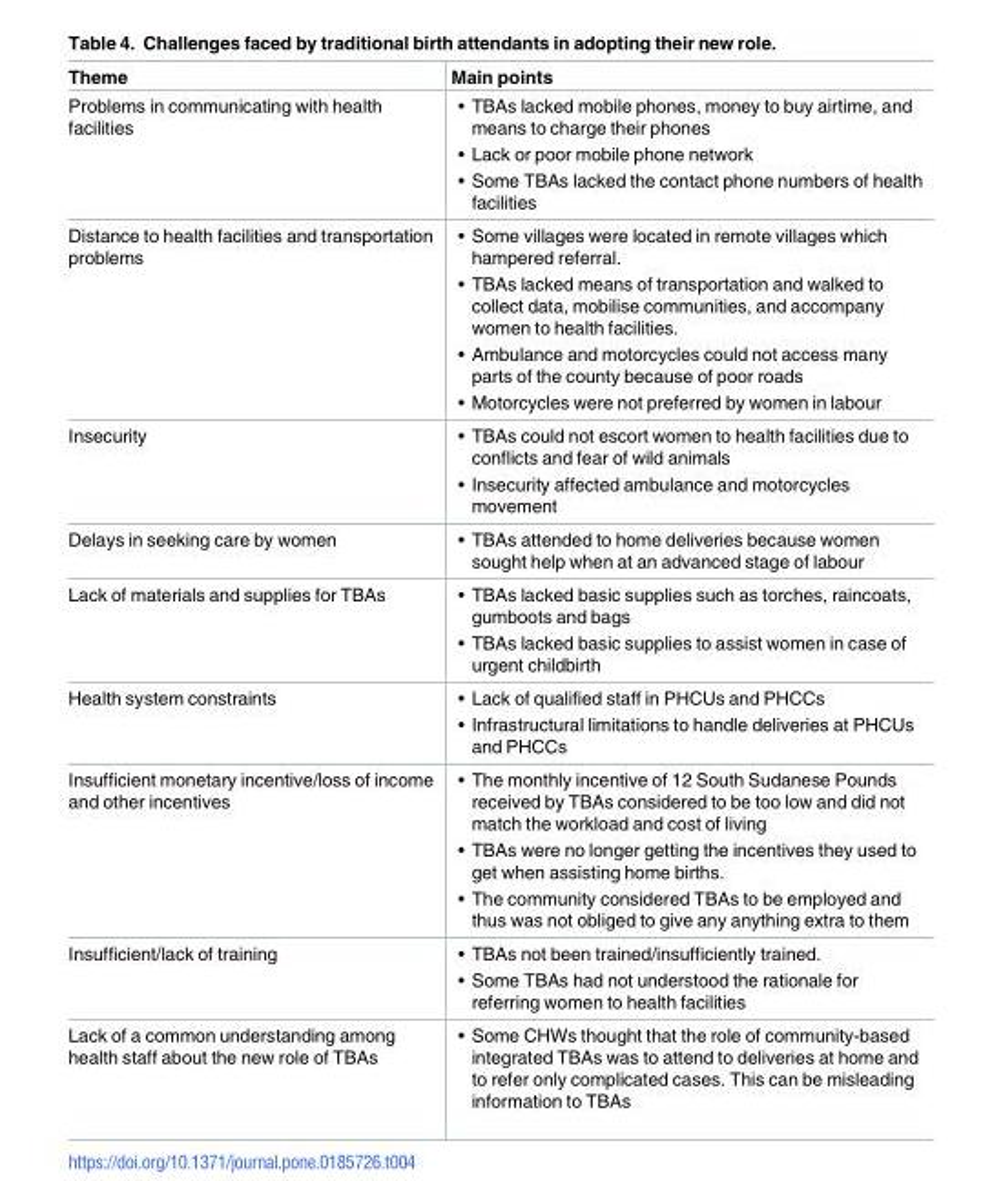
<table><thead><tr><td>Theme</td><td>Main points</td></tr></thead><tbody><tr><td>Problems in communicating with health facilities</td><td>• TBAs lacked mobile phones, money to buy airtime, and means to charge their phones • Lack or poor mobile phone network • Some TBAs lacked the contact phone numbers of health facilities</td></tr><tr><td>Distance to health facilities and transportation problems</td><td>• Some villages were located in remote villages which hampered referral. • TBAs lacked means of transportation and walked to collect data, mobilise communities, and accompany women to health facilities. • Ambulance and motorcycles could not access many parts of the county because of poor roads • Motorcycles were not preferred by women in labour</td></tr><tr><td>Insecurity</td><td>• TBAs could not escort women to health facilities due to conflicts and fear of wild animals • Insecurity affected ambulance and motorcycles movement</td></tr><tr><td>Delays in seeking care by women</td><td>• TBAs attended to home deliveries because women sought help when at an advanced stage of labour</td></tr><tr><td>Lack of materials and supplies for TBAs</td><td>• TBAs lacked basic supplies such as torches, raincoats, gumboots and bags • TBAs lacked basic supplies to assist women in case of urgent childbirth</td></tr><tr><td>Health system constraints</td><td>• Lack of qualified staff in PHCUs and PHCCs • Infrastructural limitations to handle deliveries at PHCUs and PHCCs</td></tr><tr><td>Insufficient monetary incentive/loss of income and other incentives</td><td>• The monthly incentive of 12 South Sudanese Pounds received by TBAs considered to be too low and did not match the workload and cost of living • TBAs were no longer getting the incentives they used to get when assisting home births. • The community considered TBAs to be employed and thus was not obliged to give any anything extra to them</td></tr><tr><td>Insufficient/lack of training</td><td>• TBAs not been trained/insufficiently trained. • Some TBAs had not understood the rationale for referring women to health facilities</td></tr><tr><td>Lack of a common understanding among health staff about the new role of TBAs</td><td>• Some CHWs thought that the role of community-based integrated TBAs was to attend to deliveries at home and to refer only complicated cases. This can be misleading information to TBAs</td></tr></tbody></table>